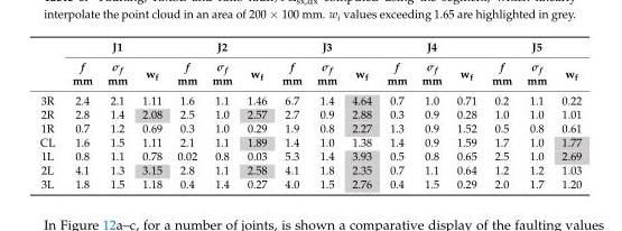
<table><thead><tr><td rowspan="2"></td><td colspan="3">J1</td><td colspan="3">J2</td><td colspan="3">J3</td><td colspan="3">J4</td><td colspan="3">J5</td></tr><tr><td>f mm</td><td>σ<sub>f</sub> mm</td><td>w<sub>f</sub></td><td>f mm</td><td>σ<sub>f</sub> mm</td><td>w<sub>f</sub></td><td>f mm</td><td>σ<sub>f</sub> mm</td><td>w<sub>f</sub></td><td>f mm</td><td>σ<sub>f</sub> mm</td><td>w<sub>f</sub></td><td>f mm</td><td>σ<sub>f</sub> mm</td><td>w<sub>f</sub></td></tr></thead><tbody><tr><td>3R</td><td>2.4</td><td>2.1</td><td>1.11</td><td>1.6</td><td>1.1</td><td>1.46</td><td>6.7</td><td>1.4</td><td>4.64</td><td>0.7</td><td>1.0</td><td>0.71</td><td>0.2</td><td>1.1</td><td>0.22</td></tr><tr><td>2R</td><td>2.8</td><td>1.4</td><td>2.08</td><td>2.5</td><td>1.0</td><td>2.57</td><td>2.7</td><td>0.9</td><td>2.88</td><td>0.3</td><td>0.9</td><td>0.28</td><td>1.0</td><td>1.0</td><td>1.01</td></tr><tr><td>1R</td><td>0.7</td><td>1.2</td><td>0.69</td><td>0.3</td><td>1.0</td><td>0.29</td><td>1.9</td><td>0.8</td><td>2.27</td><td>1.3</td><td>0.9</td><td>1.52</td><td>0.5</td><td>0.8</td><td>0.61</td></tr><tr><td>CL</td><td>1.6</td><td>1.5</td><td>1.11</td><td>2.1</td><td>1.1</td><td>1.89</td><td>1.4</td><td>1.0</td><td>1.38</td><td>1.4</td><td>0.9</td><td>1.59</td><td>1.7</td><td>1.0</td><td>1.77</td></tr><tr><td>1L</td><td>0.8</td><td>1.1</td><td>0.78</td><td>0.02</td><td>0.8</td><td>0.03</td><td>5.3</td><td>1.4</td><td>3.93</td><td>0.5</td><td>0.8</td><td>0.65</td><td>2.5</td><td>1.0</td><td>2.69</td></tr><tr><td>2L</td><td>4.1</td><td>1.3</td><td>3.15</td><td>2.8</td><td>1.1</td><td>2.58</td><td>4.1</td><td>1.8</td><td>2.35</td><td>0.7</td><td>1.1</td><td>0.64</td><td>1.2</td><td>1.2</td><td>1.03</td></tr><tr><td>3L</td><td>1.8</td><td>1.5</td><td>1.18</td><td>0.4</td><td>1.4</td><td>0.27</td><td>4.0</td><td>1.5</td><td>2.76</td><td>0.4</td><td>1.5</td><td>0.29</td><td>2.0</td><td>1.7</td><td>1.20</td></tr></tbody></table>